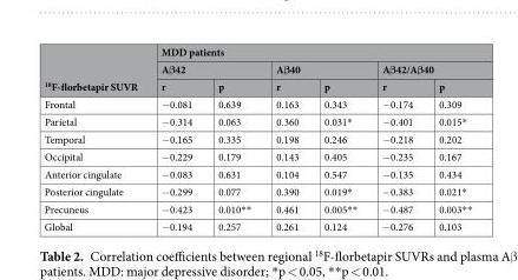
<table><thead><tr><td rowspan="3"><sup>18</sup>F-florbetapir SUVR</td><td colspan="6">MDD patients</td></tr><tr><td colspan="2">Aβ42</td><td colspan="2">Aβ40</td><td colspan="2">Aβ42/Aβ40</td></tr><tr><td>r</td><td>p</td><td>r</td><td>p</td><td>r</td><td>p</td></tr></thead><tbody><tr><td>Frontal</td><td>−0.081</td><td>0.639</td><td>0.163</td><td>0.343</td><td>−0.174</td><td>0.309</td></tr><tr><td>Parietal</td><td>−0.314</td><td>0.063</td><td>0.360</td><td>0.031*</td><td>−0.401</td><td>0.015*</td></tr><tr><td>Temporal</td><td>−0.165</td><td>0.335</td><td>0.198</td><td>0.246</td><td>−0.218</td><td>0.202</td></tr><tr><td>Occipital</td><td>−0.229</td><td>0.179</td><td>0.143</td><td>0.405</td><td>−0.235</td><td>0.167</td></tr><tr><td>Anterior cingulate</td><td>−0.083</td><td>0.631</td><td>0.104</td><td>0.547</td><td>−0.135</td><td>0.434</td></tr><tr><td>Posterior cingulate</td><td>−0.299</td><td>0.077</td><td>0.390</td><td>0.019*</td><td>−0.383</td><td>0.021*</td></tr><tr><td>Precuneus</td><td>−0.423</td><td>0.010**</td><td>0.461</td><td>0.005**</td><td>−0.487</td><td>0.003**</td></tr><tr><td>Global</td><td>−0.194</td><td>0.257</td><td>0.261</td><td>0.124</td><td>−0.276</td><td>0.103</td></tr></tbody></table>